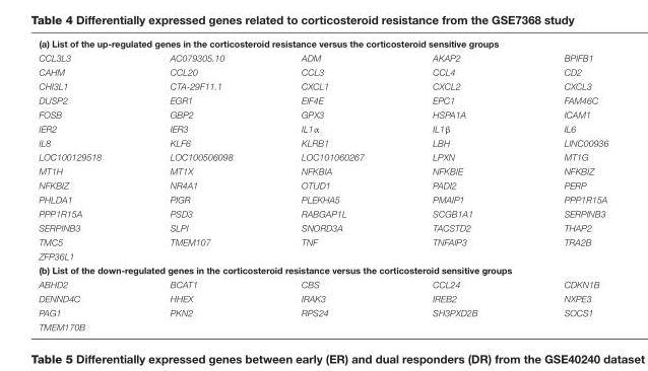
<table><tbody><tr><td colspan="5">(a) List of the up-regulated genes in the corticosteroid resistance versus the corticosteroid sensitive groups</td></tr><tr><td>CCL3L3</td><td>AC079305.10</td><td>ADM</td><td>AKAP2</td><td>BPIFB1</td></tr><tr><td>CAHM</td><td>CCL20</td><td>CCL3</td><td>CCL4</td><td>CD2</td></tr><tr><td>CHI3L1</td><td>CTA-29F11.1</td><td>CXCL1</td><td>CXCL2</td><td>CXCL3</td></tr><tr><td>DUSP2</td><td>EGR1</td><td>EIF4E</td><td>EPC1</td><td>FAM46C</td></tr><tr><td>FOSB</td><td>GBP2</td><td>GPX3</td><td>HSPA1A</td><td>ICAM1</td></tr><tr><td>IER2</td><td>IER3</td><td>IL1α</td><td>IL1β</td><td>IL6</td></tr><tr><td>IL8</td><td>KLF6</td><td>KLRB1</td><td>LBH</td><td>LINC00936</td></tr><tr><td>LOC100129518</td><td>LOC100506098</td><td>LOC101060267</td><td>LPXN</td><td>MT1G</td></tr><tr><td>MT1H</td><td>MT1X</td><td>NFKBIA</td><td>NFKBIE</td><td>NFKBIZ</td></tr><tr><td>NFKBIZ</td><td>NR4A1</td><td>OTUD1</td><td>PADI2</td><td>PERP</td></tr><tr><td>PHLDA1</td><td>PIGR</td><td>PLEKHA5</td><td>PMAIP1</td><td>PPP1R15A</td></tr><tr><td>PPP1R15A</td><td>PSD3</td><td>RABGAP1L</td><td>SCGB1A1</td><td>SERPINB3</td></tr><tr><td>SERPINB3</td><td>SLPI</td><td>SNORD3A</td><td>TACSTD2</td><td>THAP2</td></tr><tr><td>TMC5</td><td>TMEM107</td><td>TNF</td><td>TNFAIP3</td><td>TRA2B</td></tr><tr><td colspan="5">ZFP36L1</td></tr><tr><td colspan="5">(b) List of the down-regulated genes in the corticosteroid resistance versus the corticosteroid sensitive groups</td></tr><tr><td>ABHD2</td><td>BCAT1</td><td>CBS</td><td>CCL24</td><td>CDKN1B</td></tr><tr><td>DENND4C</td><td>HHEX</td><td>IRAK3</td><td>IREB2</td><td>NXPE3</td></tr><tr><td>PAG1</td><td>PKN2</td><td>RPS24</td><td>SH3PXD2B</td><td>SOCS1</td></tr><tr><td>TMEM170B</td><td></td><td></td><td></td><td></td></tr></tbody></table>